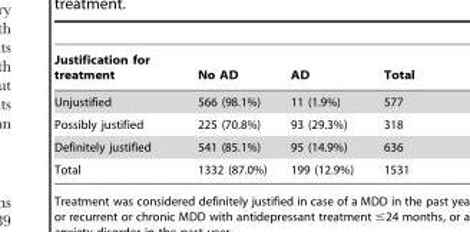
<table><thead><tr><td>Justification for treatment</td><td>No AD</td><td>AD</td><td>Total</td></tr></thead><tbody><tr><td>Unjustified</td><td>566 (98.1%)</td><td>11 (1.9%)</td><td>577</td></tr><tr><td>Possibly justified</td><td>225 (70.8%)</td><td>93 (29.3%)</td><td>318</td></tr><tr><td>Definitely justified</td><td>541 (85.1%)</td><td>95 (14.9%)</td><td>636</td></tr><tr><td>Total</td><td>1332 (87.0%)</td><td>199 (12.9%)</td><td>1531</td></tr></tbody></table>